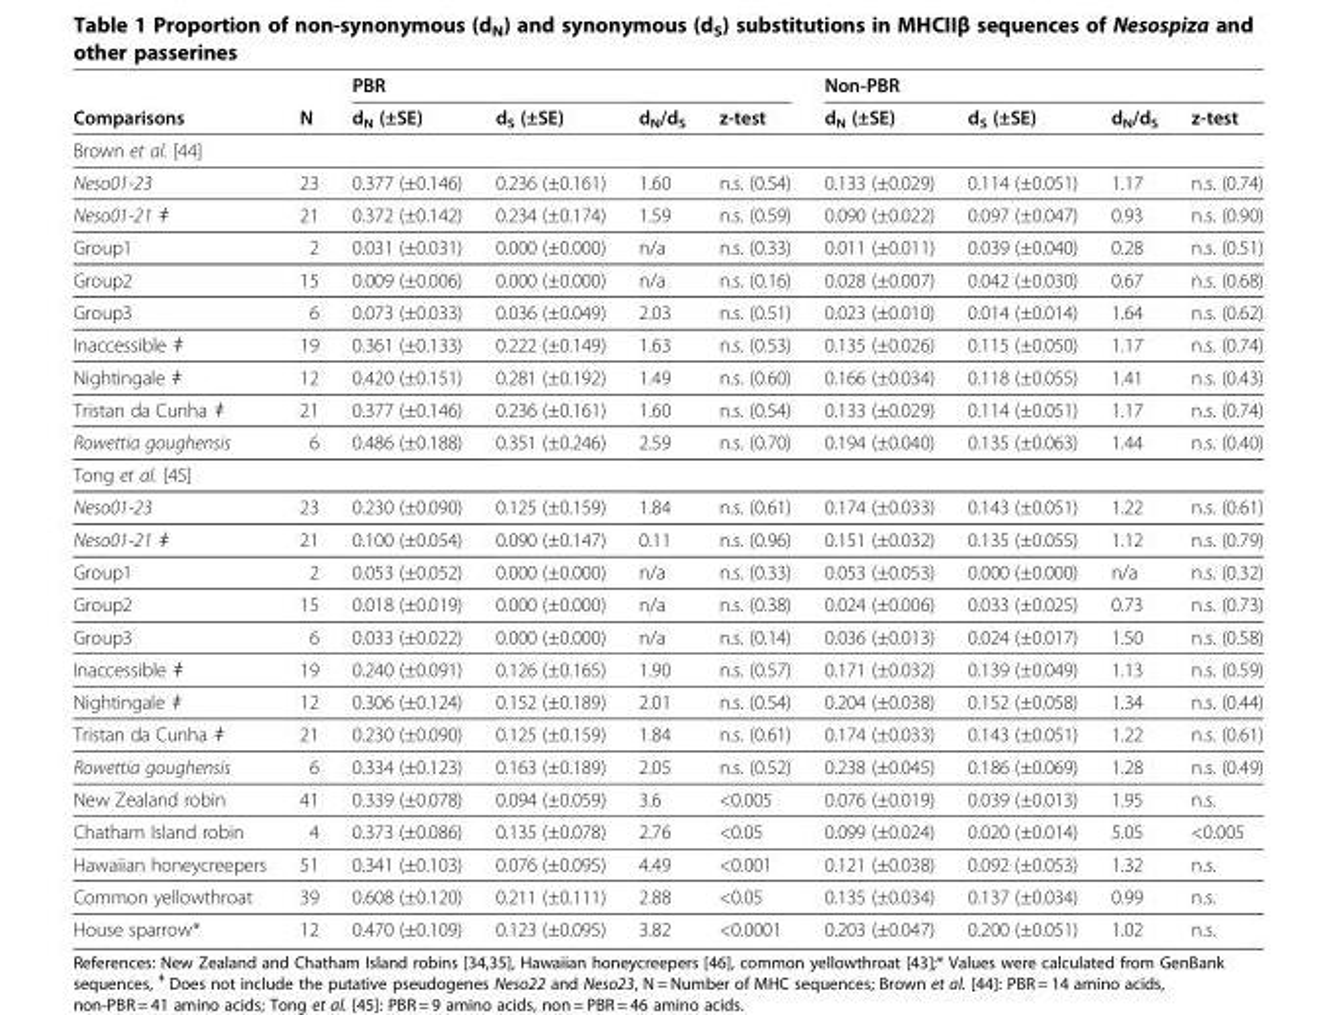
<table><thead><tr><td rowspan="2">Comparisons</td><td rowspan="2">N</td><td colspan="4">PBR</td><td colspan="4">Non-PBR</td></tr><tr><td>d<sub>N</sub> (±SE)</td><td>d<sub>S</sub> (±SE)</td><td>d<sub>N</sub>/d<sub>S</sub></td><td>z-test</td><td>d<sub>N</sub> (±SE)</td><td>d<sub>S</sub> (±SE)</td><td>d<sub>N</sub>/d<sub>S</sub></td><td>z-test</td></tr></thead><tbody><tr><td colspan="10">Brown et al. [44]</td></tr><tr><td>Neso01-23</td><td>23</td><td>0.377 (±0.146)</td><td>0.236 (±0.161)</td><td>1.60</td><td>n.s. (0.54)</td><td>0.133 (±0.029)</td><td>0.114 (±0.051)</td><td>1.17</td><td>n.s. (0.74)</td></tr><tr><td>Neso01-21 ǂ</td><td>21</td><td>0.372 (±0.142)</td><td>0.234 (±0.174)</td><td>1.59</td><td>n.s. (0.59)</td><td>0.090 (±0.022)</td><td>0.097 (±0.047)</td><td>0.93</td><td>n.s. (0.90)</td></tr><tr><td>Group1</td><td>2</td><td>0.031 (±0.031)</td><td>0.000 (±0.000)</td><td>n/a</td><td>n.s. (0.33)</td><td>0.011 (±0.011)</td><td>0.039 (±0.040)</td><td>0.28</td><td>n.s. (0.51)</td></tr><tr><td>Group2</td><td>15</td><td>0.009 (±0.006)</td><td>0.000 (±0.000)</td><td>n/a</td><td>n.s. (0.16)</td><td>0.028 (±0.007)</td><td>0.042 (±0.030)</td><td>0.67</td><td>n.s. (0.68)</td></tr><tr><td>Group3</td><td>6</td><td>0.073 (±0.033)</td><td>0.036 (±0.049)</td><td>2.03</td><td>n.s. (0.51)</td><td>0.023 (±0.010)</td><td>0.014 (±0.014)</td><td>1.64</td><td>n.s. (0.62)</td></tr><tr><td>Inaccessible ǂ</td><td>19</td><td>0.361 (±0.133)</td><td>0.222 (±0.149)</td><td>1.63</td><td>n.s. (0.53)</td><td>0.135 (±0.026)</td><td>0.115 (±0.050)</td><td>1.17</td><td>n.s. (0.74)</td></tr><tr><td>Nightingale ǂ</td><td>12</td><td>0.420 (±0.151)</td><td>0.281 (±0.192)</td><td>1.49</td><td>n.s. (0.60)</td><td>0.166 (±0.034)</td><td>0.118 (±0.055)</td><td>1.41</td><td>n.s. (0.43)</td></tr><tr><td>Tristan da Cunha ǂ</td><td>21</td><td>0.377 (±0.146)</td><td>0.236 (±0.161)</td><td>1.60</td><td>n.s. (0.54)</td><td>0.133 (±0.029)</td><td>0.114 (±0.051)</td><td>1.17</td><td>n.s. (0.74)</td></tr><tr><td>Rowettia goughensis</td><td>6</td><td>0.486 (±0.188)</td><td>0.351 (±0.246)</td><td>2.59</td><td>n.s. (0.70)</td><td>0.194 (±0.040)</td><td>0.135 (±0.063)</td><td>1.44</td><td>n.s. (0.40)</td></tr><tr><td colspan="10">Tong et al. [45]</td></tr><tr><td>Neso01-23</td><td>23</td><td>0.230 (±0.090)</td><td>0.125 (±0.159)</td><td>1.84</td><td>n.s. (0.61)</td><td>0.174 (±0.033)</td><td>0.143 (±0.051)</td><td>1.22</td><td>n.s. (0.61)</td></tr><tr><td>Neso01-21 ǂ</td><td>21</td><td>0.100 (±0.054)</td><td>0.090 (±0.147)</td><td>0.11</td><td>n.s. (0.96)</td><td>0.151 (±0.032)</td><td>0.135 (±0.055)</td><td>1.12</td><td>n.s. (0.79)</td></tr><tr><td>Group1</td><td>2</td><td>0.053 (±0.052)</td><td>0.000 (±0.000)</td><td>n/a</td><td>n.s. (0.33)</td><td>0.053 (±0.053)</td><td>0.000 (±0.000)</td><td>n/a</td><td>n.s. (0.32)</td></tr><tr><td>Group2</td><td>15</td><td>0.018 (±0.019)</td><td>0.000 (±0.000)</td><td>n/a</td><td>n.s. (0.38)</td><td>0.024 (±0.006)</td><td>0.033 (±0.025)</td><td>0.73</td><td>n.s. (0.73)</td></tr><tr><td>Group3</td><td>6</td><td>0.033 (±0.022)</td><td>0.000 (±0.000)</td><td>n/a</td><td>n.s. (0.14)</td><td>0.036 (±0.013)</td><td>0.024 (±0.017)</td><td>1.50</td><td>n.s. (0.58)</td></tr><tr><td>Inaccessible ǂ</td><td>19</td><td>0.240 (±0.091)</td><td>0.126 (±0.165)</td><td>1.90</td><td>n.s. (0.57)</td><td>0.171 (±0.032)</td><td>0.139 (±0.049)</td><td>1.13</td><td>n.s. (0.59)</td></tr><tr><td>Nightingale ǂ</td><td>12</td><td>0.306 (±0.124)</td><td>0.152 (±0.189)</td><td>2.01</td><td>n.s. (0.54)</td><td>0.204 (±0.038)</td><td>0.152 (±0.058)</td><td>1.34</td><td>n.s. (0.44)</td></tr><tr><td>Tristan da Cunha ǂ</td><td>21</td><td>0.230 (±0.090)</td><td>0.125 (±0.159)</td><td>1.84</td><td>n.s. (0.61)</td><td>0.174 (±0.033)</td><td>0.143 (±0.051)</td><td>1.22</td><td>n.s. (0.61)</td></tr><tr><td>Rowettia goughensis</td><td>6</td><td>0.334 (±0.123)</td><td>0.163 (±0.189)</td><td>2.05</td><td>n.s. (0.52)</td><td>0.238 (±0.045)</td><td>0.186 (±0.069)</td><td>1.28</td><td>n.s. (0.49)</td></tr><tr><td>New Zealand robin</td><td>41</td><td>0.339 (±0.078)</td><td>0.094 (±0.059)</td><td>3.6</td><td>&lt;0.005</td><td>0.076 (±0.019)</td><td>0.039 (±0.013)</td><td>1.95</td><td>n.s.</td></tr><tr><td>Chatham Island robin</td><td>4</td><td>0.373 (±0.086)</td><td>0.135 (±0.078)</td><td>2.76</td><td>&lt;0.05</td><td>0.099 (±0.024)</td><td>0.020 (±0.014)</td><td>5.05</td><td>&lt;0.005</td></tr><tr><td>Hawaiian honeycreepers</td><td>51</td><td>0.341 (±0.103)</td><td>0.076 (±0.095)</td><td>4.49</td><td>&lt;0.001</td><td>0.121 (±0.038)</td><td>0.092 (±0.053)</td><td>1.32</td><td>n.s.</td></tr><tr><td>Common yellowthroat</td><td>39</td><td>0.608 (±0.120)</td><td>0.211 (±0.111)</td><td>2.88</td><td>&lt;0.05</td><td>0.135 (±0.034)</td><td>0.137 (±0.034)</td><td>0.99</td><td>n.s.</td></tr><tr><td>House sparrow*</td><td>12</td><td>0.470 (±0.109)</td><td>0.123 (±0.095)</td><td>3.82</td><td>&lt;0.0001</td><td>0.203 (±0.047)</td><td>0.200 (±0.051)</td><td>1.02</td><td>n.s.</td></tr></tbody></table>